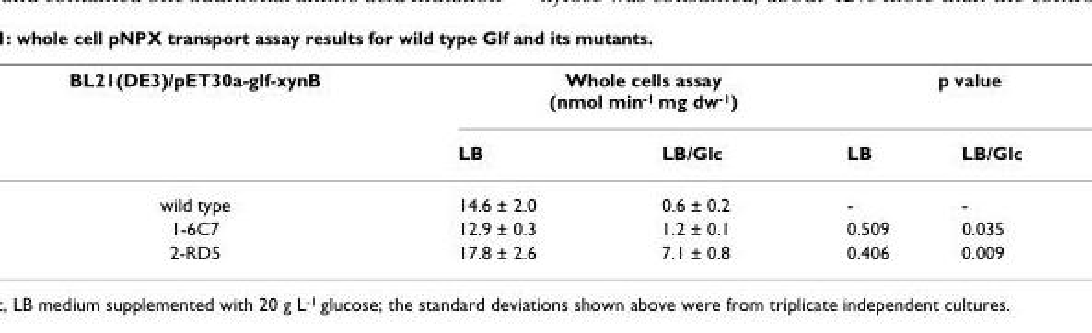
<table><thead><tr><td rowspan="2">BL21(DE3)/pET30a-glf-xynB</td><td colspan="2">Whole cells assay (nmol min<sup>-1</sup> mg dw<sup>-1</sup>)</td><td colspan="2">p value</td></tr><tr><td>LB</td><td>LB/Glc</td><td>LB</td><td>LB/Glc</td></tr></thead><tbody><tr><td>wild type</td><td>14.6 ± 2.0</td><td>0.6 ± 0.2</td><td>-</td><td>-</td></tr><tr><td>1-6C7</td><td>12.9 ± 0.3</td><td>1.2 ± 0.1</td><td>0.509</td><td>0.035</td></tr><tr><td>2-RD5</td><td>17.8 ± 2.6</td><td>7.1 ± 0.8</td><td>0.406</td><td>0.009</td></tr></tbody></table>